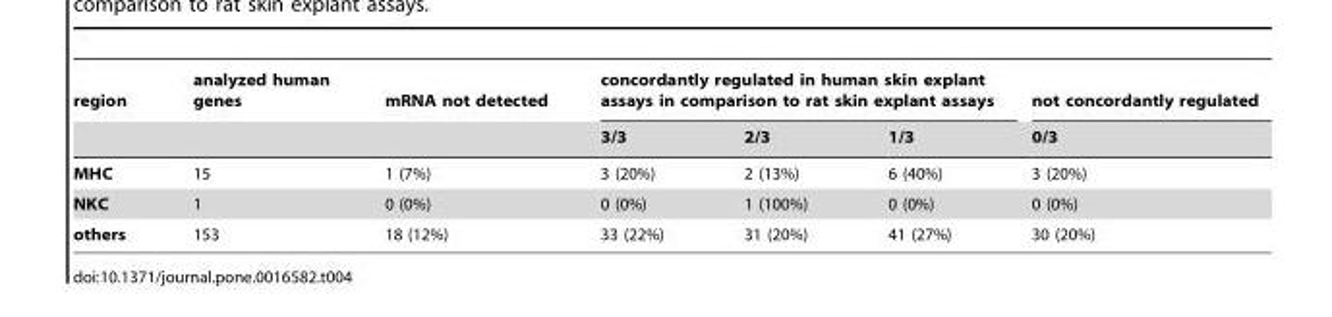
<table><thead><tr><td rowspan="2">region</td><td rowspan="2">analyzed human genes</td><td rowspan="2">mRNA not detected</td><td colspan="3">concordantly regulated in human skin explant assays in comparison to rat skin explant assays</td><td rowspan="2">not concordantly regulated 0/3</td></tr><tr><td>3/3</td><td>2/3</td><td>1/3</td></tr></thead><tbody><tr><td>MHC</td><td>15</td><td>1 (7%)</td><td>3 (20%)</td><td>2 (13%)</td><td>6 (40%)</td><td>3 (20%)</td></tr><tr><td>NKC</td><td>1</td><td>0 (0%)</td><td>0 (0%)</td><td>1 (100%)</td><td>0 (0%)</td><td>0 (0%)</td></tr><tr><td>others</td><td>153</td><td>18 (12%)</td><td>33 (22%)</td><td>31 (20%)</td><td>41 (27%)</td><td>30 (20%)</td></tr></tbody></table>